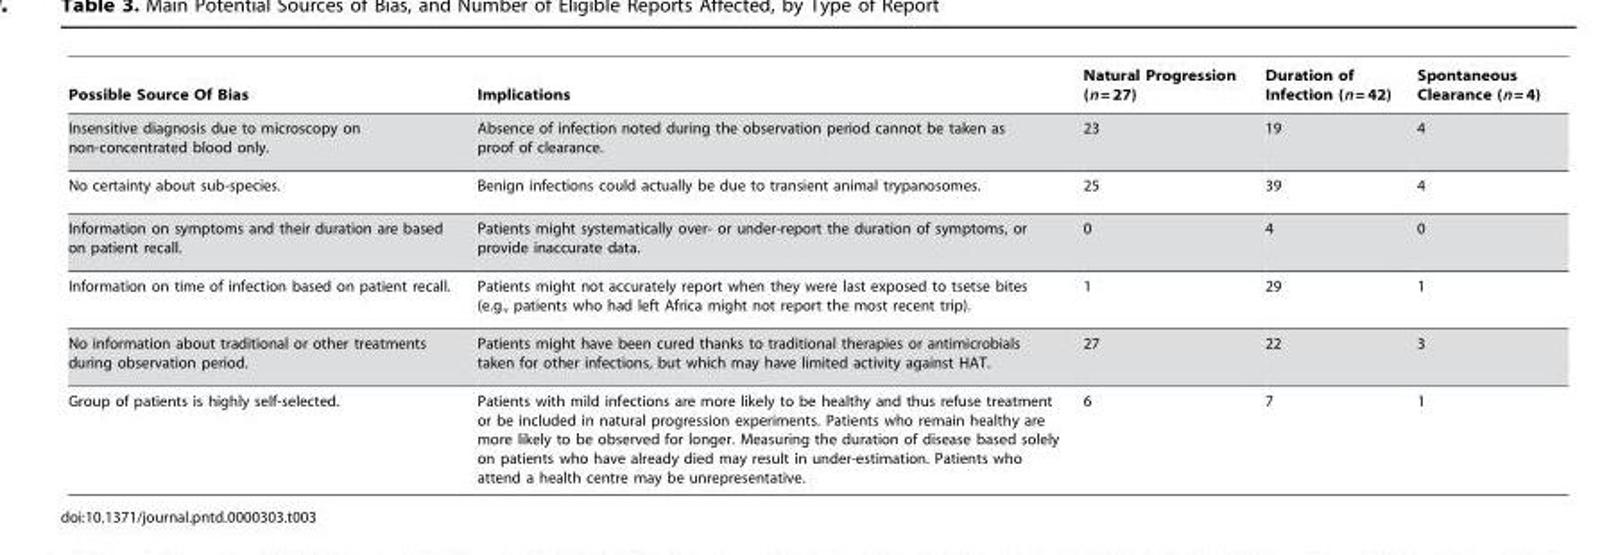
<table><thead><tr><td>Possible Source Of Bias</td><td>Implications</td><td>Natural Progression (n = 27)</td><td>Duration of Infection (n = 42)</td><td>Spontaneous Clearance (n = 4)</td></tr></thead><tbody><tr><td>Insensitive diagnosis due to microscopy on non-concentrated blood only.</td><td>Absence of infection noted during the observation period cannot be taken as proof of clearance.</td><td>23</td><td>19</td><td>4</td></tr><tr><td>No certainty about sub-species.</td><td>Benign infections could actually be due to transient animal trypanosomes.</td><td>25</td><td>39</td><td>4</td></tr><tr><td>Information on symptoms and their duration are based on patient recall.</td><td>Patients might systematically over- or under-report the duration of symptoms, or provide inaccurate data.</td><td>0</td><td>4</td><td>0</td></tr><tr><td>Information on time of infection based on patient recall.</td><td>Patients might not accurately report when they were last exposed to tsetse bites (e.g., patients who had left Africa might not report the most recent trip).</td><td>1</td><td>29</td><td>1</td></tr><tr><td>No information about traditional or other treatments during observation period.</td><td>Patients might have been cured thanks to traditional therapies or antimicrobials taken for other infections, but which may have limited activity against HAT.</td><td>27</td><td>22</td><td>3</td></tr><tr><td>Group of patients is highly self-selected.</td><td>Patients with mild infections are more likely to be healthy and thus refuse treatment or be included in natural progression experiments. Patients who remain healthy are more likely to be observed for longer. Measuring the duration of disease based solely on patients who have already died may result in under-estimation. Patients who attend a health centre may be unrepresentative.</td><td>6</td><td>7</td><td>1</td></tr></tbody></table>